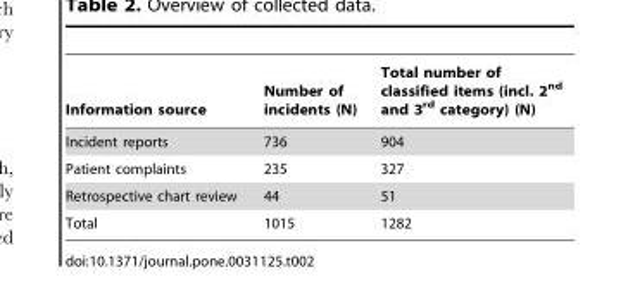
<table><thead><tr><td>Information source</td><td>Number of incidents (N)</td><td>Total number of classified items (incl. 2<sup>nd</sup> and 3<sup>rd</sup> category) (N)</td></tr></thead><tbody><tr><td>Incident reports</td><td>736</td><td>904</td></tr><tr><td>Patient complaints</td><td>235</td><td>327</td></tr><tr><td>Retrospective chart review</td><td>44</td><td>51</td></tr><tr><td>Total</td><td>1015</td><td>1282</td></tr></tbody></table>